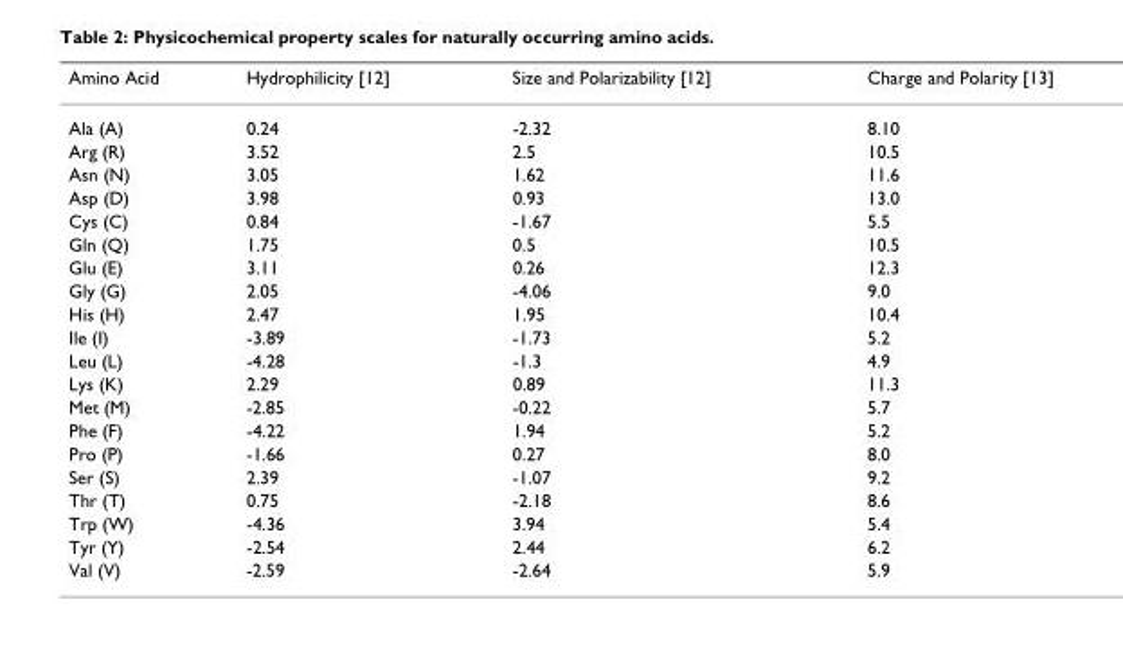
<table><thead><tr><td>Amino Acid</td><td>Hydrophilicity [12]</td><td>Size and Polarizability [12]</td><td>Charge and Polarity [13]</td></tr></thead><tbody><tr><td>Ala (A)</td><td>0.24</td><td>-2.32</td><td>8.10</td></tr><tr><td>Arg (R)</td><td>3.52</td><td>2.5</td><td>10.5</td></tr><tr><td>Asn (N)</td><td>3.05</td><td>1.62</td><td>11.6</td></tr><tr><td>Asp (D)</td><td>3.98</td><td>0.93</td><td>13.0</td></tr><tr><td>Cys (C)</td><td>0.84</td><td>-1.67</td><td>5.5</td></tr><tr><td>Gln (Q)</td><td>1.75</td><td>0.5</td><td>10.5</td></tr><tr><td>Glu (E)</td><td>3.11</td><td>0.26</td><td>12.3</td></tr><tr><td>Gly (G)</td><td>2.05</td><td>-4.06</td><td>9.0</td></tr><tr><td>His (H)</td><td>2.47</td><td>1.95</td><td>10.4</td></tr><tr><td>Ile (I)</td><td>-3.89</td><td>-1.73</td><td>5.2</td></tr><tr><td>Leu (L)</td><td>-4.28</td><td>-1.3</td><td>4.9</td></tr><tr><td>Lys (K)</td><td>2.29</td><td>0.89</td><td>11.3</td></tr><tr><td>Met (M)</td><td>-2.85</td><td>-0.22</td><td>5.7</td></tr><tr><td>Phe (F)</td><td>-4.22</td><td>1.94</td><td>5.2</td></tr><tr><td>Pro (P)</td><td>-1.66</td><td>0.27</td><td>8.0</td></tr><tr><td>Ser (S)</td><td>2.39</td><td>-1.07</td><td>9.2</td></tr><tr><td>Thr (T)</td><td>0.75</td><td>-2.18</td><td>8.6</td></tr><tr><td>Trp (W)</td><td>-4.36</td><td>3.94</td><td>5.4</td></tr><tr><td>Tyr (Y)</td><td>-2.54</td><td>2.44</td><td>6.2</td></tr><tr><td>Val (V)</td><td>-2.59</td><td>-2.64</td><td>5.9</td></tr></tbody></table>